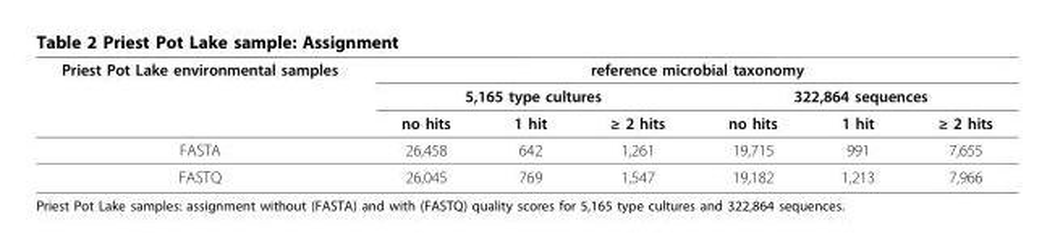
<table><thead><tr><td rowspan="3">Priest Pot Lake environmental samples</td><td colspan="6">reference microbial taxonomy</td></tr><tr><td colspan="3">5,165 type cultures</td><td colspan="3">322,864 sequences</td></tr><tr><td>no hits</td><td>1 hit</td><td>≥ 2 hits</td><td>no hits</td><td>1 hit</td><td>≥ 2 hits</td></tr></thead><tbody><tr><td>FASTA</td><td>26,458</td><td>642</td><td>1,261</td><td>19,715</td><td>991</td><td>7,655</td></tr><tr><td>FASTQ</td><td>26,045</td><td>769</td><td>1,547</td><td>19,182</td><td>1,213</td><td>7,966</td></tr></tbody></table>